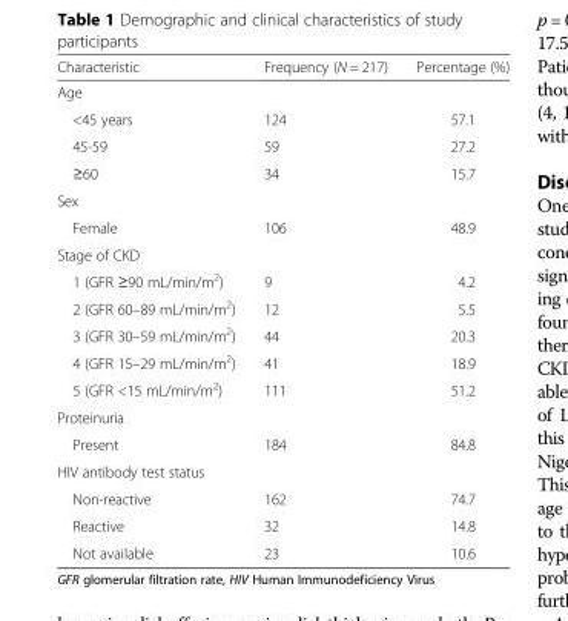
<table><thead><tr><td>Characteristic</td><td>Frequency (N = 217)</td><td>Percentage (%)</td></tr></thead><tbody><tr><td colspan="3">Age</td></tr><tr><td>&lt;45 years</td><td>124</td><td>57.1</td></tr><tr><td>45-59</td><td>59</td><td>27.2</td></tr><tr><td>≥60</td><td>34</td><td>15.7</td></tr><tr><td colspan="3">Sex</td></tr><tr><td>Female</td><td>106</td><td>48.9</td></tr><tr><td colspan="3">Stage of CKD</td></tr><tr><td>1 (GFR ≥90 mL/min/m<sup>2</sup>)</td><td>9</td><td>4.2</td></tr><tr><td>2 (GFR 60–89 mL/min/m<sup>2</sup>)</td><td>12</td><td>5.5</td></tr><tr><td>3 (GFR 30–59 mL/min/m<sup>2</sup>)</td><td>44</td><td>20.3</td></tr><tr><td>4 (GFR 15–29 mL/min/m<sup>2</sup>)</td><td>41</td><td>18.9</td></tr><tr><td>5 (GFR &lt;15 mL/min/m<sup>2</sup>)</td><td>111</td><td>51.2</td></tr><tr><td colspan="3">Proteinuria</td></tr><tr><td>Present</td><td>184</td><td>84.8</td></tr><tr><td colspan="3">HIV antibody test status</td></tr><tr><td>Non-reactive</td><td>162</td><td>74.7</td></tr><tr><td>Reactive</td><td>32</td><td>14.8</td></tr><tr><td>Not available</td><td>23</td><td>10.6</td></tr></tbody></table>